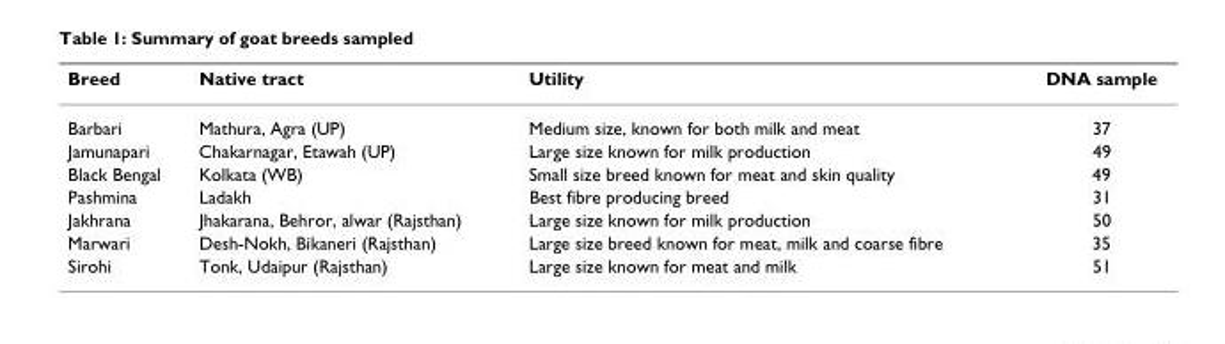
<table><thead><tr><td>Breed</td><td>Native tract</td><td>Utility</td><td>DNA sample</td></tr></thead><tbody><tr><td>Barbari</td><td>Mathura, Agra (UP)</td><td>Medium size, known for both milk and meat</td><td>37</td></tr><tr><td>Jamunapari</td><td>Chakarnagar, Etawah (UP)</td><td>Large size known for milk production</td><td>49</td></tr><tr><td>Black Bengal</td><td>Kolkata (WB)</td><td>Small size breed known for meat and skin quality</td><td>49</td></tr><tr><td>Pashmina</td><td>Ladakh</td><td>Best fibre producing breed</td><td>31</td></tr><tr><td>Jakhrana</td><td>Jhakarana, Behror, alwar (Rajsthan)</td><td>Large size known for milk production</td><td>50</td></tr><tr><td>Marwari</td><td>Desh-Nokh, Bikaneri (Rajsthan)</td><td>Large size breed known for meat, milk and coarse fibre</td><td>35</td></tr><tr><td>Sirohi</td><td>Tonk, Udaipur (Rajsthan)</td><td>Large size known for meat and milk</td><td>51</td></tr></tbody></table>